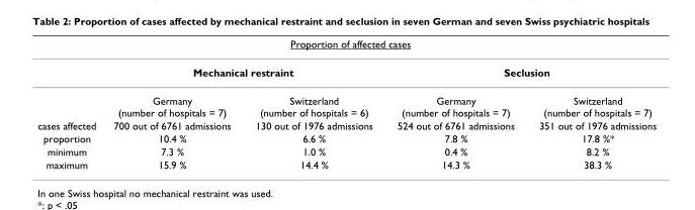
<table><thead><tr><td colspan="5">Proportion of affected cases</td></tr><tr><td rowspan="2"></td><td colspan="2">Mechanical restraint</td><td colspan="2">Seclusion</td></tr><tr><td>Germany (number of hospitals = 7)</td><td>Switzerland (number of hospitals = 6)</td><td>Germany (number of hospitals = 7)</td><td>Switzerland (number of hospitals = 7)</td></tr></thead><tbody><tr><td>cases affected</td><td>700 out of 6761 admissions</td><td>130 out of 1976 admissions</td><td>524 out of 6761 admissions</td><td>351 out of 1976 admissions</td></tr><tr><td>proportion</td><td>10.4 %</td><td>6.6 %</td><td>7.8 %</td><td>17.8 %*</td></tr><tr><td>minimum</td><td>7.3 %</td><td>1.0 %</td><td>0.4 %</td><td>8.2 %</td></tr><tr><td>maximum</td><td>15.9 %</td><td>14.4 %</td><td>14.3 %</td><td>38.3 %</td></tr></tbody></table>